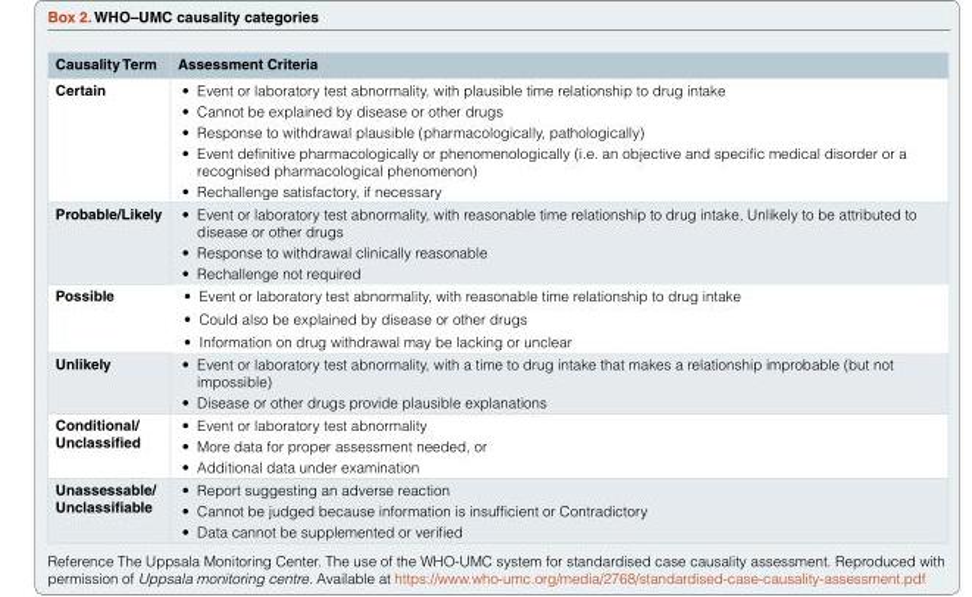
<table><tbody><tr><td>Causality Term</td><td>Assessment Criteria</td></tr><tr><td>Certain</td><td>• Event or laboratory test abnormality, with plausible time relationship to drug intake • Cannot be explained by disease or other drugs • Response to withdrawal plausible (pharmacologically, pathologically) • Event definitive pharmacologically or phenomenologically (i.e. an objective and specific medical disorder or a recognised pharmacological phenomenon) • Rechallenge satisfactory, if necessary</td></tr><tr><td>Probable/Likely</td><td>• Event or laboratory test abnormality, with reasonable time relationship to drug intake, Unlikely to be attributed to disease or other drugs • Response to withdrawal clinically reasonable • Rechallenge not required</td></tr><tr><td>Possible</td><td>• Event or laboratory test abnormality, with reasonable time relationship to drug intake • Could also be explained by disease or other drugs • Information on drug withdrawal may be lacking or unclear</td></tr><tr><td>Unlikely</td><td>• Event or laboratory test abnormality, with a time to drug intake that makes a relationship improbable (but not impossible) • Disease or other drugs provide plausible explanations</td></tr><tr><td>Conditional/ Unclassified</td><td>• Event or laboratory test abnormality • More data for proper assessment needed, or • Additional data under examination</td></tr><tr><td>Unassessable/ Unclassifiable</td><td>• Report suggesting an adverse reaction • Cannot be judged because information is insufficient or Contradictory • Data cannot be supplemented or verified</td></tr></tbody></table>